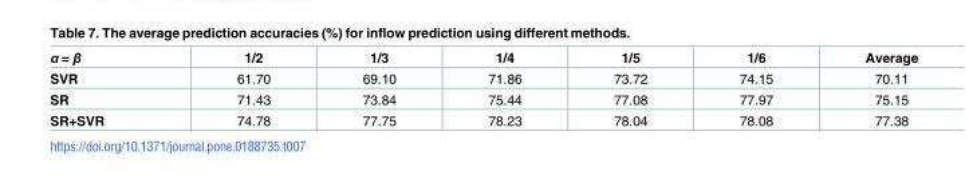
<table><thead><tr><td>α = β</td><td>1/2</td><td>1/3</td><td>1/4</td><td>1/5</td><td>1/6</td><td>Average</td></tr></thead><tbody><tr><td>SVR</td><td>61.70</td><td>69.10</td><td>71.86</td><td>73.72</td><td>74.15</td><td>70.11</td></tr><tr><td>SR</td><td>71.43</td><td>73.84</td><td>75.44</td><td>77.08</td><td>77.97</td><td>75.15</td></tr><tr><td>SR+SVR</td><td>74.78</td><td>77.75</td><td>78.23</td><td>78.04</td><td>78.08</td><td>77.38</td></tr></tbody></table>